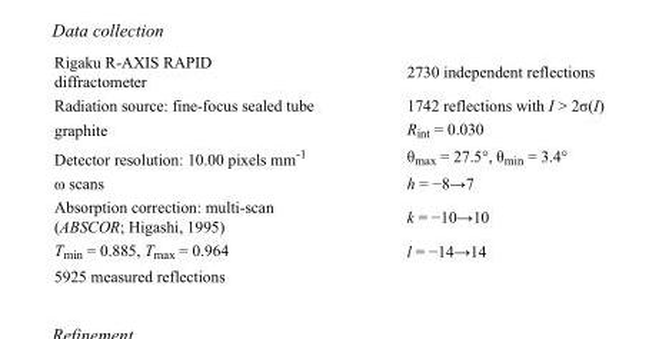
<table><tbody><tr><td>Rigaku R-AXIS RAPID diffractometer</td><td>2730 independent reflections</td></tr><tr><td>Radiation source: fine-focus sealed tube</td><td>1742 reflections with I &gt; 2σ(I)</td></tr><tr><td>graphite</td><td>R<sub>int</sub> = 0.030</td></tr><tr><td>Detector resolution: 10.00 pixels mm<sup>-1</sup></td><td>θ<sub>max</sub> = 27.5°, θ<sub>min</sub> = 3.4°</td></tr><tr><td>ω scans</td><td>h = −8→7</td></tr><tr><td>Absorption correction: multi-scan (ABSCOR; Higashi, 1995)</td><td>k = −10→10</td></tr><tr><td>T<sub>min</sub> = 0.885, T<sub>max</sub> = 0.964</td><td>l = −14→14</td></tr><tr><td>5925 measured reflections</td><td></td></tr></tbody></table>